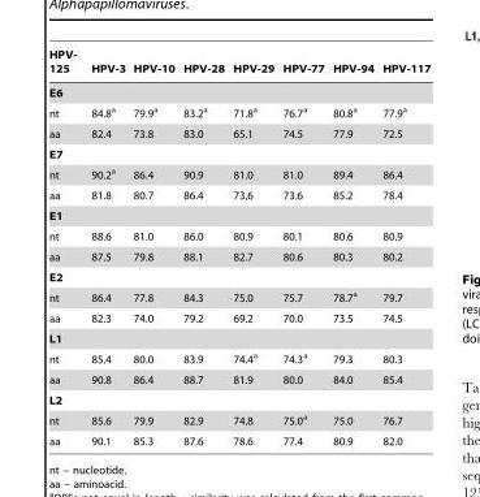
<table><thead><tr><td>HPV- 125</td><td>HPV-3</td><td>HPV-10</td><td>HPV-28</td><td>HPV-29</td><td>HPV-77</td><td>HPV-94</td><td>HPV-117</td></tr></thead><tbody><tr><td colspan="8">E6</td></tr><tr><td>nt</td><td>84.8<sup>a</sup></td><td>79.9<sup>a</sup></td><td>83.2<sup>a</sup></td><td>71.8<sup>a</sup></td><td>76.7<sup>a</sup></td><td>80.8<sup>a</sup></td><td>77.9<sup>a</sup></td></tr><tr><td>aa</td><td>82.4</td><td>73.8</td><td>83.0</td><td>65.1</td><td>74.5</td><td>77.9</td><td>72.5</td></tr><tr><td colspan="8">E7</td></tr><tr><td>nt</td><td>90.2<sup>a</sup></td><td>86.4</td><td>90.9</td><td>81.0</td><td>81.0</td><td>89.4</td><td>86.4</td></tr><tr><td>aa</td><td>81.8</td><td>80.7</td><td>86.4</td><td>73,6</td><td>73.6</td><td>85.2</td><td>78.4</td></tr><tr><td colspan="8">E1</td></tr><tr><td>nt</td><td>88.6</td><td>81.0</td><td>86.0</td><td>80.9</td><td>80.1</td><td>80.6</td><td>80.9</td></tr><tr><td>aa</td><td>87.5</td><td>79.8</td><td>88.1</td><td>82.7</td><td>80.6</td><td>80.3</td><td>80.2</td></tr><tr><td colspan="8">E2</td></tr><tr><td>nt</td><td>86.4</td><td>77.8</td><td>84.3</td><td>75.0</td><td>75.7</td><td>78.7<sup>a</sup></td><td>79.7</td></tr><tr><td>aa</td><td>82.3</td><td>74.0</td><td>79.2</td><td>69.2</td><td>70.0</td><td>73.5</td><td>74.5</td></tr><tr><td colspan="8">L1</td></tr><tr><td>nt</td><td>85.4</td><td>80.0</td><td>83.9</td><td>74.4<sup>a</sup></td><td>74.3<sup>a</sup></td><td>79.3</td><td>80.3</td></tr><tr><td>aa</td><td>90.8</td><td>86.4</td><td>88.7</td><td>81.9</td><td>80.0</td><td>84.0</td><td>85.4</td></tr><tr><td colspan="8">L2</td></tr><tr><td>nt</td><td>85.6</td><td>79.9</td><td>82.9</td><td>74.8</td><td>75.0<sup>a</sup></td><td>75.0</td><td>76.7</td></tr><tr><td>aa</td><td>90.1</td><td>85.3</td><td>87.6</td><td>78.6</td><td>77.4</td><td>80.9</td><td>82.0</td></tr></tbody></table>